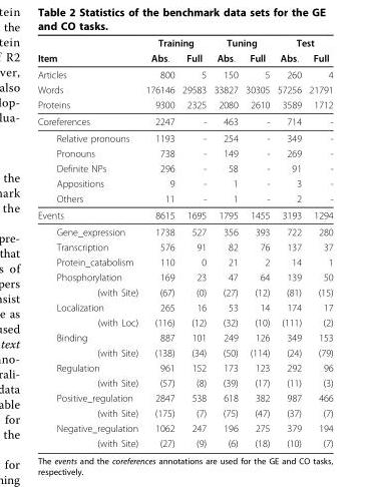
<table><thead><tr><td rowspan="2">Item</td><td colspan="2">Training</td><td colspan="2">Tuning</td><td colspan="2">Test</td></tr><tr><td>Abs.</td><td>Full</td><td>Abs.</td><td>Full</td><td>Abs.</td><td>Full</td></tr></thead><tbody><tr><td>Articles</td><td>800</td><td>5</td><td>150</td><td>5</td><td>260</td><td>4</td></tr><tr><td>Words</td><td>176146</td><td>29583</td><td>33827</td><td>30305</td><td>57256</td><td>21791</td></tr><tr><td>Proteins</td><td>9300</td><td>2325</td><td>2080</td><td>2610</td><td>3589</td><td>1712</td></tr><tr><td>Coreferences</td><td>2247</td><td>-</td><td>463</td><td>-</td><td>714</td><td>-</td></tr><tr><td>Relative pronouns</td><td>1193</td><td>-</td><td>254</td><td>-</td><td>349</td><td>-</td></tr><tr><td>Pronouns</td><td>738</td><td>-</td><td>149</td><td>-</td><td>269</td><td>-</td></tr><tr><td>Definite NPs</td><td>296</td><td>-</td><td>58</td><td>-</td><td>91</td><td>-</td></tr><tr><td>Appositions</td><td>9</td><td>-</td><td>1</td><td>-</td><td>3</td><td>-</td></tr><tr><td>Others</td><td>11</td><td>-</td><td>1</td><td>-</td><td>2</td><td>-</td></tr><tr><td>Events</td><td>8615</td><td>1695</td><td>1795</td><td>1455</td><td>3193</td><td>1294</td></tr><tr><td>Gene_expression</td><td>1738</td><td>527</td><td>356</td><td>393</td><td>722</td><td>280</td></tr><tr><td>Transcription</td><td>576</td><td>91</td><td>82</td><td>76</td><td>137</td><td>37</td></tr><tr><td>Protein_catabolism</td><td>110</td><td>0</td><td>21</td><td>2</td><td>14</td><td>1</td></tr><tr><td>Phosphorylation</td><td>169</td><td>23</td><td>47</td><td>64</td><td>139</td><td>50</td></tr><tr><td>(with Site)</td><td>(67)</td><td>(0)</td><td>(27)</td><td>(12)</td><td>(81)</td><td>(15)</td></tr><tr><td>Localization</td><td>265</td><td>16</td><td>53</td><td>14</td><td>174</td><td>17</td></tr><tr><td>(with Loc)</td><td>(116)</td><td>(12)</td><td>(32)</td><td>(10)</td><td>(111)</td><td>(2)</td></tr><tr><td>Binding</td><td>887</td><td>101</td><td>249</td><td>126</td><td>349</td><td>153</td></tr><tr><td>(with Site)</td><td>(138)</td><td>(34)</td><td>(50)</td><td>(114)</td><td>(24)</td><td>(79)</td></tr><tr><td>Regulation</td><td>961</td><td>152</td><td>173</td><td>123</td><td>292</td><td>96</td></tr><tr><td>(with Site)</td><td>(57)</td><td>(8)</td><td>(39)</td><td>(17)</td><td>(11)</td><td>(3)</td></tr><tr><td>Positive_regulation</td><td>2847</td><td>538</td><td>618</td><td>382</td><td>987</td><td>466</td></tr><tr><td>(with Site)</td><td>(175)</td><td>(7)</td><td>(75)</td><td>(47)</td><td>(37)</td><td>(7)</td></tr><tr><td>Negative_regulation</td><td>1062</td><td>247</td><td>196</td><td>275</td><td>379</td><td>194</td></tr><tr><td>(with Site)</td><td>(27)</td><td>(9)</td><td>(6)</td><td>(18)</td><td>(10)</td><td>(7)</td></tr></tbody></table>